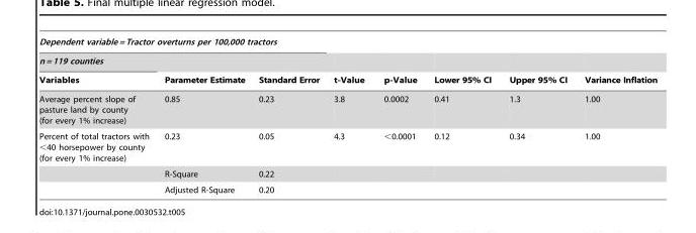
<table><thead><tr><td colspan="3">Dependent variable = Tractor overturns per 100,000 tractors</td><td rowspan="3">t-Value</td><td rowspan="3">p-Value</td><td rowspan="3">Lower 95% CI</td><td rowspan="3">Upper 95% CI</td><td rowspan="3">Variance Inflation</td></tr><tr><td rowspan="2">n = 119 counties Variables</td><td rowspan="2">Parameter Estimate</td><td rowspan="2">Standard Error</td></tr><tr></tr></thead><tbody><tr><td>Average percent slope of pasture land by county (for every 1% increase)</td><td>0.85</td><td>0.23</td><td>3.8</td><td>0.0002</td><td>0.41</td><td>1.3</td><td>1.00</td></tr><tr><td rowspan="3">Percent of total tractors with &lt;40 horsepower by county (for every 1% increase)</td><td>0.23</td><td>0.05</td><td>4.3</td><td>&lt;0.0001</td><td>0.12</td><td>0.34</td><td>1.00</td></tr><tr><td>R-Square</td><td>0.22</td><td></td><td></td><td></td><td></td><td></td></tr><tr><td>Adjusted R-Square</td><td>0.20</td><td></td><td></td><td></td><td></td><td></td></tr></tbody></table>